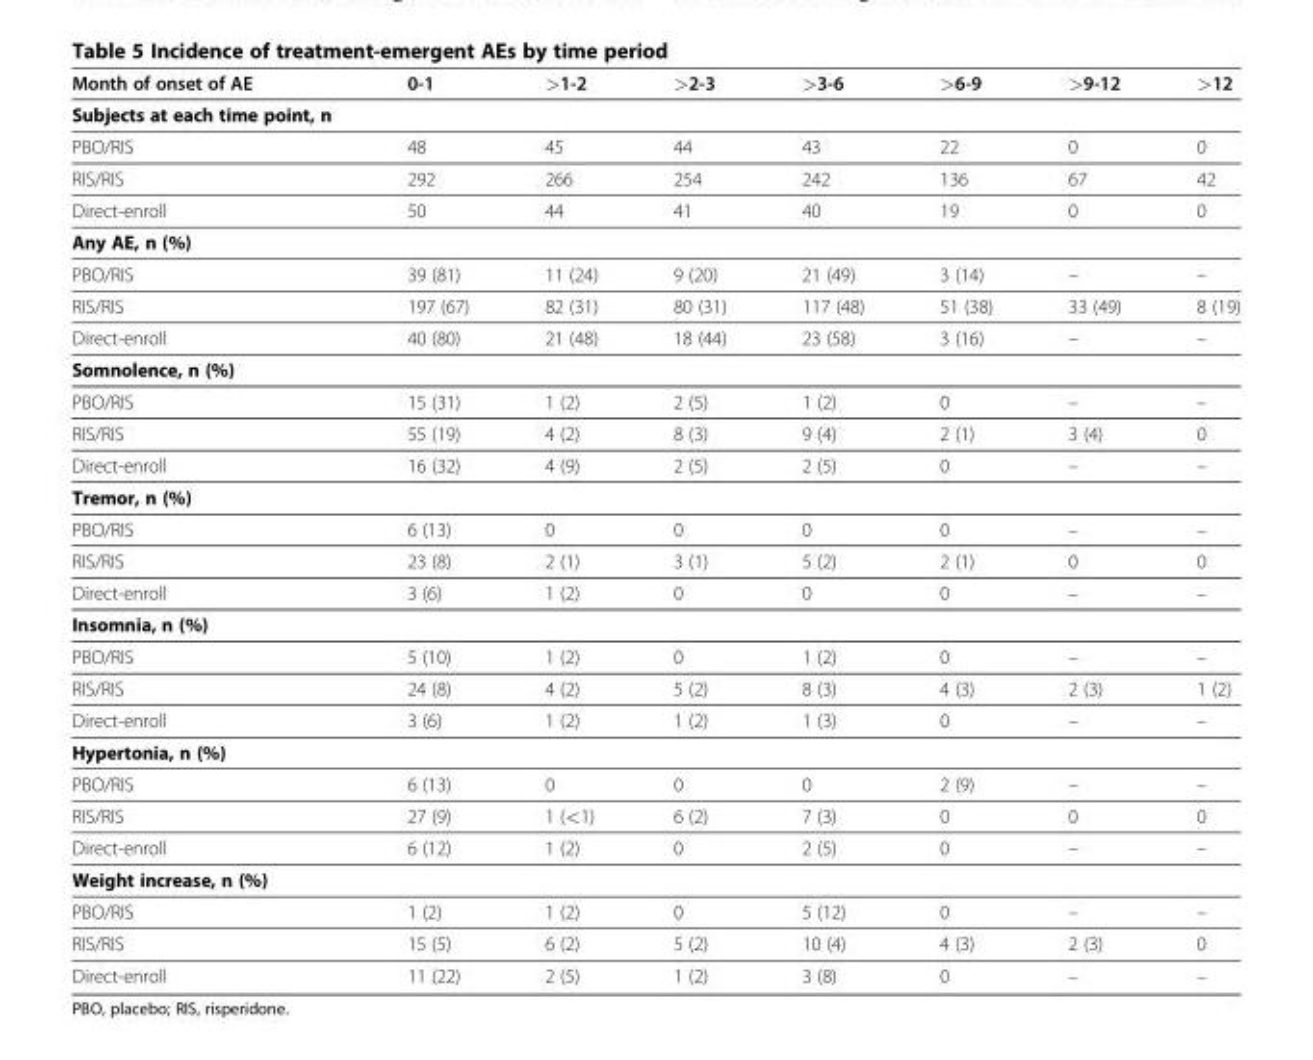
<table><thead><tr><td>Month of onset of AE</td><td>0-1</td><td>&gt;1-2</td><td>&gt;2-3</td><td>&gt;3-6</td><td>&gt;6-9</td><td>&gt;9-12</td><td>&gt;12</td></tr></thead><tbody><tr><td colspan="8">Subjects at each time point, n</td></tr><tr><td>PBO/RIS</td><td>48</td><td>45</td><td>44</td><td>43</td><td>22</td><td>0</td><td>0</td></tr><tr><td>RIS/RIS</td><td>292</td><td>266</td><td>254</td><td>242</td><td>136</td><td>67</td><td>42</td></tr><tr><td>Direct-enroll</td><td>50</td><td>44</td><td>41</td><td>40</td><td>19</td><td>0</td><td>0</td></tr><tr><td colspan="8">Any AE, n (%)</td></tr><tr><td>PBO/RIS</td><td>39 (81)</td><td>11 (24)</td><td>9 (20)</td><td>21 (49)</td><td>3 (14)</td><td>–</td><td>–</td></tr><tr><td>RIS/RIS</td><td>197 (67)</td><td>82 (31)</td><td>80 (31)</td><td>117 (48)</td><td>51 (38)</td><td>33 (49)</td><td>8 (19)</td></tr><tr><td>Direct-enroll</td><td>40 (80)</td><td>21 (48)</td><td>18 (44)</td><td>23 (58)</td><td>3 (16)</td><td>–</td><td>–</td></tr><tr><td colspan="8">Somnolence, n (%)</td></tr><tr><td>PBO/RIS</td><td>15 (31)</td><td>1 (2)</td><td>2 (5)</td><td>1 (2)</td><td>0</td><td>–</td><td>–</td></tr><tr><td>RIS/RIS</td><td>55 (19)</td><td>4 (2)</td><td>8 (3)</td><td>9 (4)</td><td>2 (1)</td><td>3 (4)</td><td>0</td></tr><tr><td>Direct-enroll</td><td>16 (32)</td><td>4 (9)</td><td>2 (5)</td><td>2 (5)</td><td>0</td><td>–</td><td>–</td></tr><tr><td colspan="8">Tremor, n (%)</td></tr><tr><td>PBO/RIS</td><td>6 (13)</td><td>0</td><td>0</td><td>0</td><td>0</td><td>–</td><td>–</td></tr><tr><td>RIS/RIS</td><td>23 (8)</td><td>2 (1)</td><td>3 (1)</td><td>5 (2)</td><td>2 (1)</td><td>0</td><td>0</td></tr><tr><td>Direct-enroll</td><td>3 (6)</td><td>1 (2)</td><td>0</td><td>0</td><td>0</td><td>–</td><td>–</td></tr><tr><td colspan="8">Insomnia, n (%)</td></tr><tr><td>PBO/RIS</td><td>5 (10)</td><td>1 (2)</td><td>0</td><td>1 (2)</td><td>0</td><td>–</td><td>–</td></tr><tr><td>RIS/RIS</td><td>24 (8)</td><td>4 (2)</td><td>5 (2)</td><td>8 (3)</td><td>4 (3)</td><td>2 (3)</td><td>1 (2)</td></tr><tr><td>Direct-enroll</td><td>3 (6)</td><td>1 (2)</td><td>1 (2)</td><td>1 (3)</td><td>0</td><td>–</td><td>–</td></tr><tr><td colspan="8">Hypertonia, n (%)</td></tr><tr><td>PBO/RIS</td><td>6 (13)</td><td>0</td><td>0</td><td>0</td><td>2 (9)</td><td>–</td><td>–</td></tr><tr><td>RIS/RIS</td><td>27 (9)</td><td>1 (&lt;1)</td><td>6 (2)</td><td>7 (3)</td><td>0</td><td>0</td><td>0</td></tr><tr><td>Direct-enroll</td><td>6 (12)</td><td>1 (2)</td><td>0</td><td>2 (5)</td><td>0</td><td>–</td><td>–</td></tr><tr><td colspan="8">Weight increase, n (%)</td></tr><tr><td>PBO/RIS</td><td>1 (2)</td><td>1 (2)</td><td>0</td><td>5 (12)</td><td>0</td><td>–</td><td>–</td></tr><tr><td>RIS/RIS</td><td>15 (5)</td><td>6 (2)</td><td>5 (2)</td><td>10 (4)</td><td>4 (3)</td><td>2 (3)</td><td>0</td></tr><tr><td>Direct-enroll</td><td>11 (22)</td><td>2 (5)</td><td>1 (2)</td><td>3 (8)</td><td>0</td><td>–</td><td>–</td></tr></tbody></table>